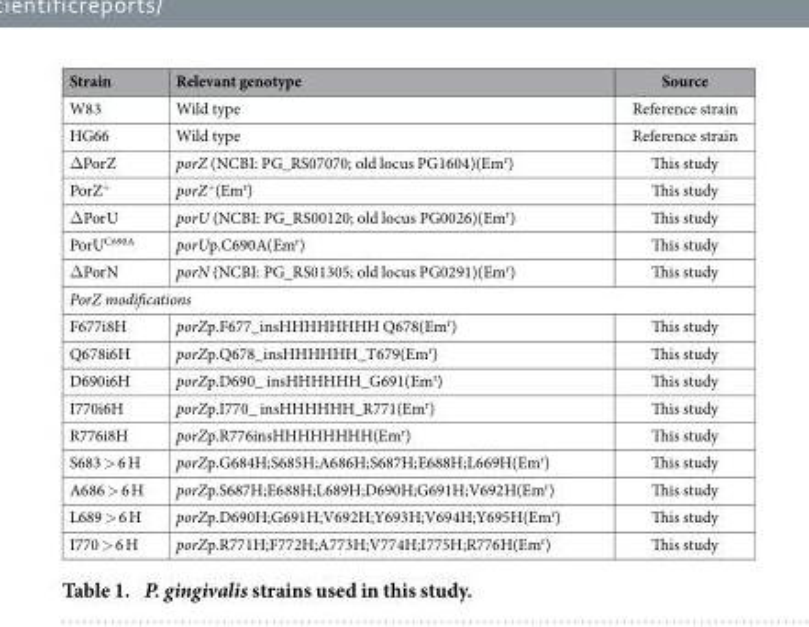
<table><thead><tr><td>Strain</td><td>Relevant genotype</td><td>Source</td></tr></thead><tbody><tr><td>W83</td><td>Wild type</td><td>Reference strain</td></tr><tr><td>HG66</td><td>Wild type</td><td>Reference strain</td></tr><tr><td>Δ PorZ</td><td>porZ (NCBI: PG_RS07070; old locus PG1604)(Em<sup>r</sup>)</td><td>This study</td></tr><tr><td>PorZ<sup>+</sup></td><td>porZ<sup>+</sup>(Em<sup>r</sup>)</td><td>This study</td></tr><tr><td>Δ PorU</td><td>porU (NCBI: PG_RS00120; old locus PG0026)(Em<sup>r</sup>)</td><td>This study</td></tr><tr><td>PorU<sup>C690A</sup></td><td>porUp.C690A(Em<sup>r</sup>)</td><td>This study</td></tr><tr><td>Δ PorN</td><td>porN (NCBI: PG_RS01305; old locus PG0291)(Em<sup>r</sup>)</td><td>This study</td></tr><tr><td colspan="3">PorZ modifications</td></tr><tr><td>F677i8H</td><td>porZp.F677_insHHHHHHHH Q678(Em<sup>r</sup>)</td><td>This study</td></tr><tr><td>Q678i6H</td><td>porZp.Q678_insHHHHHH_T679(Em<sup>r</sup>)</td><td>This study</td></tr><tr><td>D690i6H</td><td>porZp.D690_ insHHHHHH_G691(Em<sup>r</sup>)</td><td>This study</td></tr><tr><td>I770i6H</td><td>porZp.I770_ insHHHHHH_R771(Em<sup>r</sup>)</td><td>This study</td></tr><tr><td>R776i8H</td><td>porZp.R776insHHHHHHHH(Em<sup>r</sup>)</td><td>This study</td></tr><tr><td>S683 &gt; 6 H</td><td>porZp.G684H;S685H;A686H;S687H;E688H;L669H(Em<sup>r</sup>)</td><td>This study</td></tr><tr><td>A686 &gt; 6 H</td><td>porZp.S687H;E688H;L689H;D690H;G691H;V692H(Em<sup>r</sup>)</td><td>This study</td></tr><tr><td>L689 &gt; 6 H</td><td>porZp.D690H;G691H;V692H;Y693H;V694H;Y695H(Em<sup>r</sup>)</td><td>This study</td></tr><tr><td>I770 &gt; 6 H</td><td>porZp.R771H;F772H;A773H;V774H;I775H;R776H(Em<sup>r</sup>)</td><td>This study</td></tr></tbody></table>